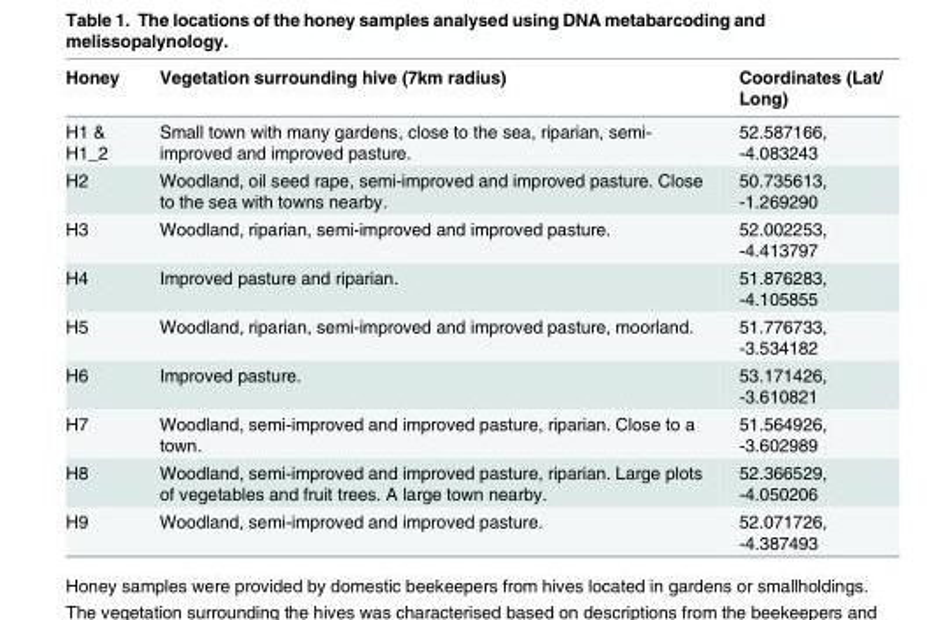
<table><thead><tr><td>Honey</td><td>Vegetation surrounding hive (7km radius)</td><td>Coordinates (Lat/ Long)</td></tr></thead><tbody><tr><td>H1 &amp; H1_2</td><td>Small town with many gardens, close to the sea, riparian, semi- improved and improved pasture.</td><td>52.587166, -4.083243</td></tr><tr><td>H2</td><td>Woodland, oil seed rape, semi-improved and improved pasture. Close to the sea with towns nearby.</td><td>50.735613, -1.269290</td></tr><tr><td>H3</td><td>Woodland, riparian, semi-improved and improved pasture.</td><td>52.002253, -4.413797</td></tr><tr><td>H4</td><td>Improved pasture and riparian.</td><td>51.876283, -4.105855</td></tr><tr><td>H5</td><td>Woodland, riparian, semi-improved and improved pasture, moorland.</td><td>51.776733, -3.534182</td></tr><tr><td>H6</td><td>Improved pasture.</td><td>53.171426, -3.610821</td></tr><tr><td>H7</td><td>Woodland, semi-improved and improved pasture, riparian. Close to a town.</td><td>51.564926, -3.602989</td></tr><tr><td>H8</td><td>Woodland, semi-improved and improved pasture, riparian. Large plots of vegetables and fruit trees. A large town nearby.</td><td>52.366529, -4.050206</td></tr><tr><td>H9</td><td>Woodland, semi-improved and improved pasture.</td><td>52.071726, -4.387493</td></tr></tbody></table>